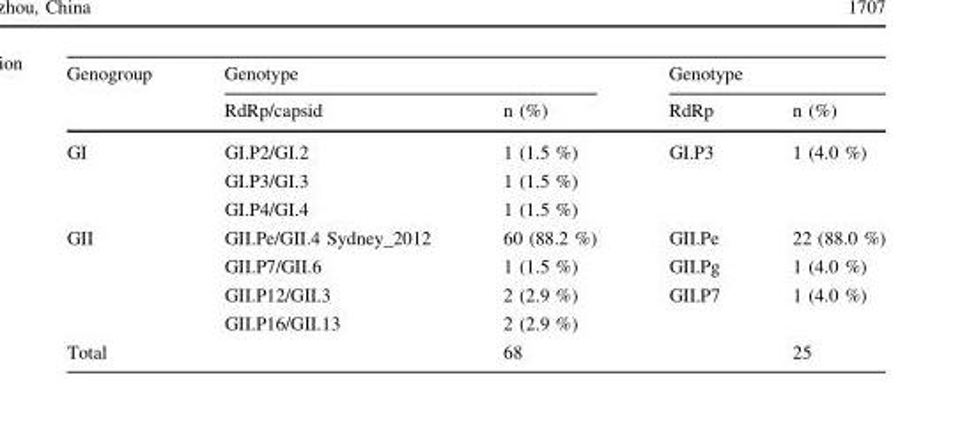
<table><thead><tr><td rowspan="2">Genogroup</td><td colspan="2">Genotype</td><td colspan="2">Genotype</td></tr><tr><td>RdRp/capsid</td><td>n (%)</td><td>RdRp</td><td>n (%)</td></tr></thead><tbody><tr><td rowspan="3">GI</td><td>GI.P2/GI.2</td><td>1 (1.5 %)</td><td>GI.P3</td><td>1 (4.0 %)</td></tr><tr><td>GI.P3/GI.3</td><td>1 (1.5 %)</td><td></td><td></td></tr><tr><td>GI.P4/GI.4</td><td>1 (1.5 %)</td><td></td><td></td></tr><tr><td rowspan="4">GII</td><td>GII.Pe/GII.4 Sydney_2012</td><td>60 (88.2 %)</td><td>GII.Pe</td><td>22 (88.0 %)</td></tr><tr><td>GII.P7/GII.6</td><td>1 (1.5 %)</td><td>GII.Pg</td><td>1 (4.0 %)</td></tr><tr><td>GII.P12/GII.3</td><td>2 (2.9 %)</td><td>GII.P7</td><td>1 (4.0 %)</td></tr><tr><td>GII.P16/GII.13</td><td>2 (2.9 %)</td><td></td><td></td></tr><tr><td>Total</td><td></td><td>68</td><td></td><td>25</td></tr></tbody></table>